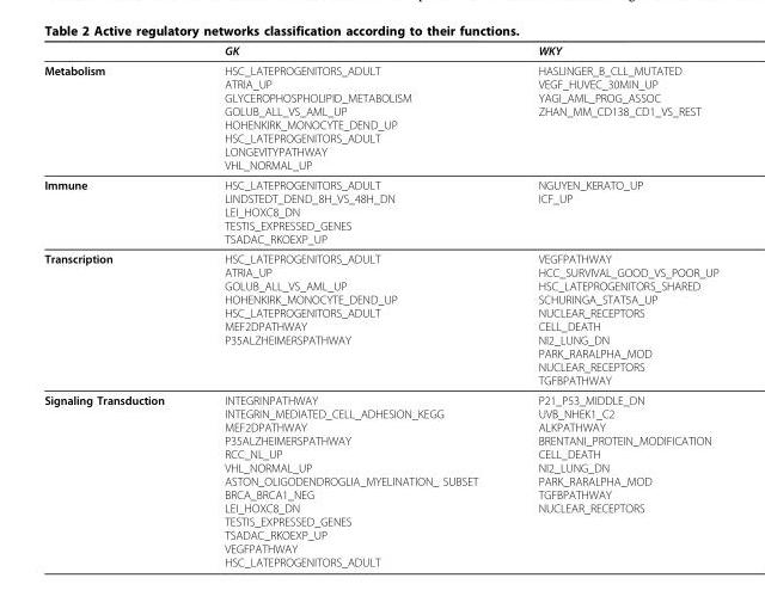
<table><thead><tr><td></td><td>GK</td><td>WKY</td></tr></thead><tbody><tr><td>Metabolism</td><td>HSC_LATEPROGENITORS_ADULT ATRIA_UP GLYCEROPHOSPHOLIPID_METABOLISM GOLUB_ALL_VS_AML_UP HOHENKIRK_MONOCYTE_DEND_UP HSC_LATEPROGENITORS_ADULT LONGEVITYPATHWAY VHL_NORMAL_UP</td><td>HASLINGER_B_CLL_MUTATED VEGF_HUVEC_30MIN_UP YAGI_AML_PROG_ASSOC ZHAN_MM_CD138_CD1_VS_REST</td></tr><tr><td>Immune</td><td>HSC_LATEPROGENITORS_ADULT LINDSTEDT_DEND_8H_VS_48H_DN LEI_HOXC8_DN TESTIS_EXPRESSED_GENES TSADAC_RKOEXP_UP</td><td>NGUYEN_KERATO_UP ICF_UP</td></tr><tr><td>Transcription</td><td>HSC_LATEPROGENITORS_ADULT ATRIA_UP GOLUB_ALL_VS_AML_UP HOHENKIRK_MONOCYTE_DEND_UP HSC_LATEPROGENITORS_ADULT MEF2DPATHWAY P35ALZHEIMERSPATHWAY</td><td>VEGFPATHWAY HCC_SURVIVAL_GOOD_VS_POOR_UP HSC_LATEPROGENITORS_SHARED SCHURINGA_STAT5A_UP NUCLEAR_RECEPTORS CELL_DEATH NI2_LUNG_DN PARK_RARALPHA_MOD NUCLEAR_RECEPTORS TGFBPATHWAY</td></tr><tr><td>Signaling Transduction</td><td>INTEGRINPATHWAY INTEGRIN_MEDIATED_CELL_ADHESION_KEGG MEF2DPATHWAY P35ALZHEIMERSPATHWAY RCC_NL_UP VHL_NORMAL_UP ASTON_OLIGODENDROGLIA_MYELINATION_ SUBSET BRCA_BRCA1_NEG LEI_HOXC8_DN TESTIS_EXPRESSED_GENES TSADAC_RKOEXP_UP VEGFPATHWAY HSC_LATEPROGENITORS_ADULT</td><td>P21_P53_MIDDLE_DN UVB_NHEK1_C2 ALKPATHWAY BRENTANI_PROTEIN_MODIFICATION CELL_DEATH NI2_LUNG_DN PARK_RARALPHA_MOD TGFBPATHWAY NUCLEAR_RECEPTORS</td></tr></tbody></table>